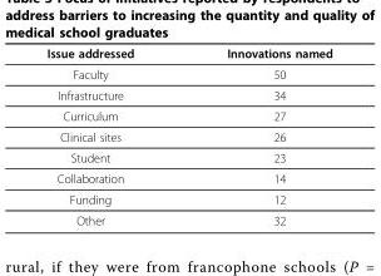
<table><thead><tr><td>Issue addressed</td><td>Innovations named</td></tr></thead><tbody><tr><td>Faculty</td><td>50</td></tr><tr><td>Infrastructure</td><td>34</td></tr><tr><td>Curriculum</td><td>27</td></tr><tr><td>Clinical sites</td><td>26</td></tr><tr><td>Student</td><td>23</td></tr><tr><td>Collaboration</td><td>14</td></tr><tr><td>Funding</td><td>12</td></tr><tr><td>Other</td><td>32</td></tr></tbody></table>